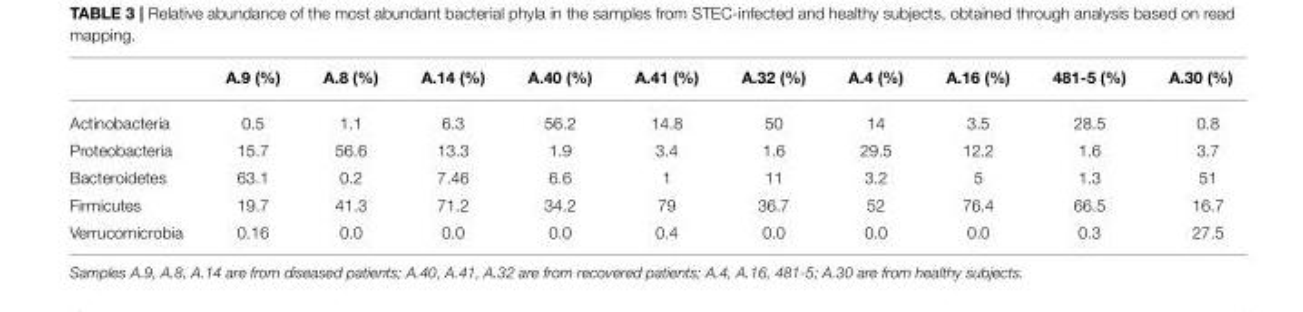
<table><thead><tr><td></td><td>A.9 (%)</td><td>A.8 (%)</td><td>A.14 (%)</td><td>A.40 (%)</td><td>A.41 (%)</td><td>A.32 (%)</td><td>A.4 (%)</td><td>A.16 (%)</td><td>481-5 (%)</td><td>A.30 (%)</td></tr></thead><tbody><tr><td>Actinobacteria</td><td>0.5</td><td>1.1</td><td>6.3</td><td>56.2</td><td>14.8</td><td>50</td><td>14</td><td>3.5</td><td>28.5</td><td>0.8</td></tr><tr><td>Proteobacteria</td><td>15.7</td><td>56.6</td><td>13.3</td><td>1.9</td><td>3.4</td><td>1.6</td><td>29.5</td><td>12.2</td><td>1.6</td><td>3.7</td></tr><tr><td>Bacteroidetes</td><td>63.1</td><td>0.2</td><td>7.46</td><td>6.6</td><td>1</td><td>11</td><td>3.2</td><td>5</td><td>1.3</td><td>51</td></tr><tr><td>Firmicutes</td><td>19.7</td><td>41.3</td><td>71.2</td><td>34.2</td><td>79</td><td>36.7</td><td>52</td><td>76.4</td><td>66.5</td><td>16.7</td></tr><tr><td>Verrucomicrobia</td><td>0.16</td><td>0.0</td><td>0.0</td><td>0.0</td><td>0.4</td><td>0.0</td><td>0.0</td><td>0.0</td><td>0.3</td><td>27.5</td></tr></tbody></table>